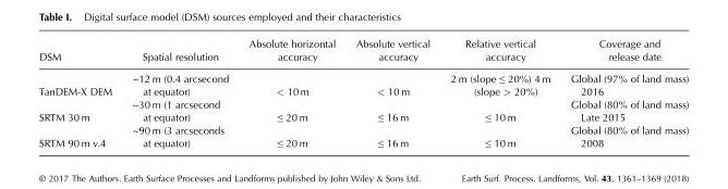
<table><thead><tr><td>DSM</td><td>Spatial resolution</td><td>Absolute horizontal accuracy</td><td>Absolute vertical accuracy</td><td>Relative vertical accuracy</td><td>Coverage and release date</td></tr></thead><tbody><tr><td>TanDEM-X DEM</td><td>~12 m (0.4 arcsecond at equator)</td><td>&lt; 10 m</td><td>&lt; 10 m</td><td>2 m (slope ≤ 20%) 4 m (slope &gt; 20%)</td><td>Global (97% of land mass) 2016</td></tr><tr><td>SRTM 30 m</td><td>~30 m (1 arcsecond at equator)</td><td>≤ 20 m</td><td>≤ 16 m</td><td>≤ 10 m</td><td>Global (80% of land mass) Late 2015</td></tr><tr><td>SRTM 90 m v.4</td><td>~90 m (3 arcseconds at equator)</td><td>≤ 20 m</td><td>≤ 16 m</td><td>≤ 10 m</td><td>Global (80% of land mass) 2008</td></tr></tbody></table>